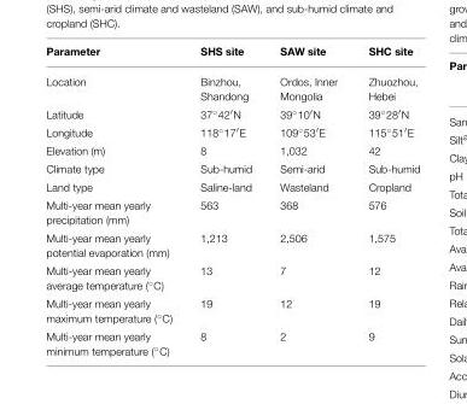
<table><thead><tr><td>Parameter</td><td>SHS site</td><td>SAW site</td><td>SHC site</td></tr></thead><tbody><tr><td>Location</td><td>Binzhou, Shandong</td><td>Ordos, Inner Mongolia</td><td>Zhuozhou, Hebei</td></tr><tr><td>Latitude</td><td>37◦42′N</td><td>39◦10′N</td><td>39◦28′N</td></tr><tr><td>Longitude</td><td>118◦17′E</td><td>109◦53′E</td><td>115◦51′E</td></tr><tr><td>Elevation (m)</td><td>8</td><td>1,032</td><td>42</td></tr><tr><td>Climate type</td><td>Sub-humid</td><td>Semi-arid</td><td>Sub-humid</td></tr><tr><td>Land type</td><td>Saline-land</td><td>Wasteland</td><td>Cropland</td></tr><tr><td>Multi-year mean yearly precipitation (mm)</td><td>563</td><td>368</td><td>576</td></tr><tr><td>Multi-year mean yearly potential evaporation (mm)</td><td>1,213</td><td>2,506</td><td>1,575</td></tr><tr><td>Multi-year mean yearly average temperature (◦C)</td><td>13</td><td>7</td><td>12</td></tr><tr><td>Multi-year mean yearly maximum temperature (◦C)</td><td>19</td><td>12</td><td>19</td></tr><tr><td>Multi-year mean yearly minimum temperature (◦C)</td><td>8</td><td>2</td><td>9</td></tr></tbody></table>